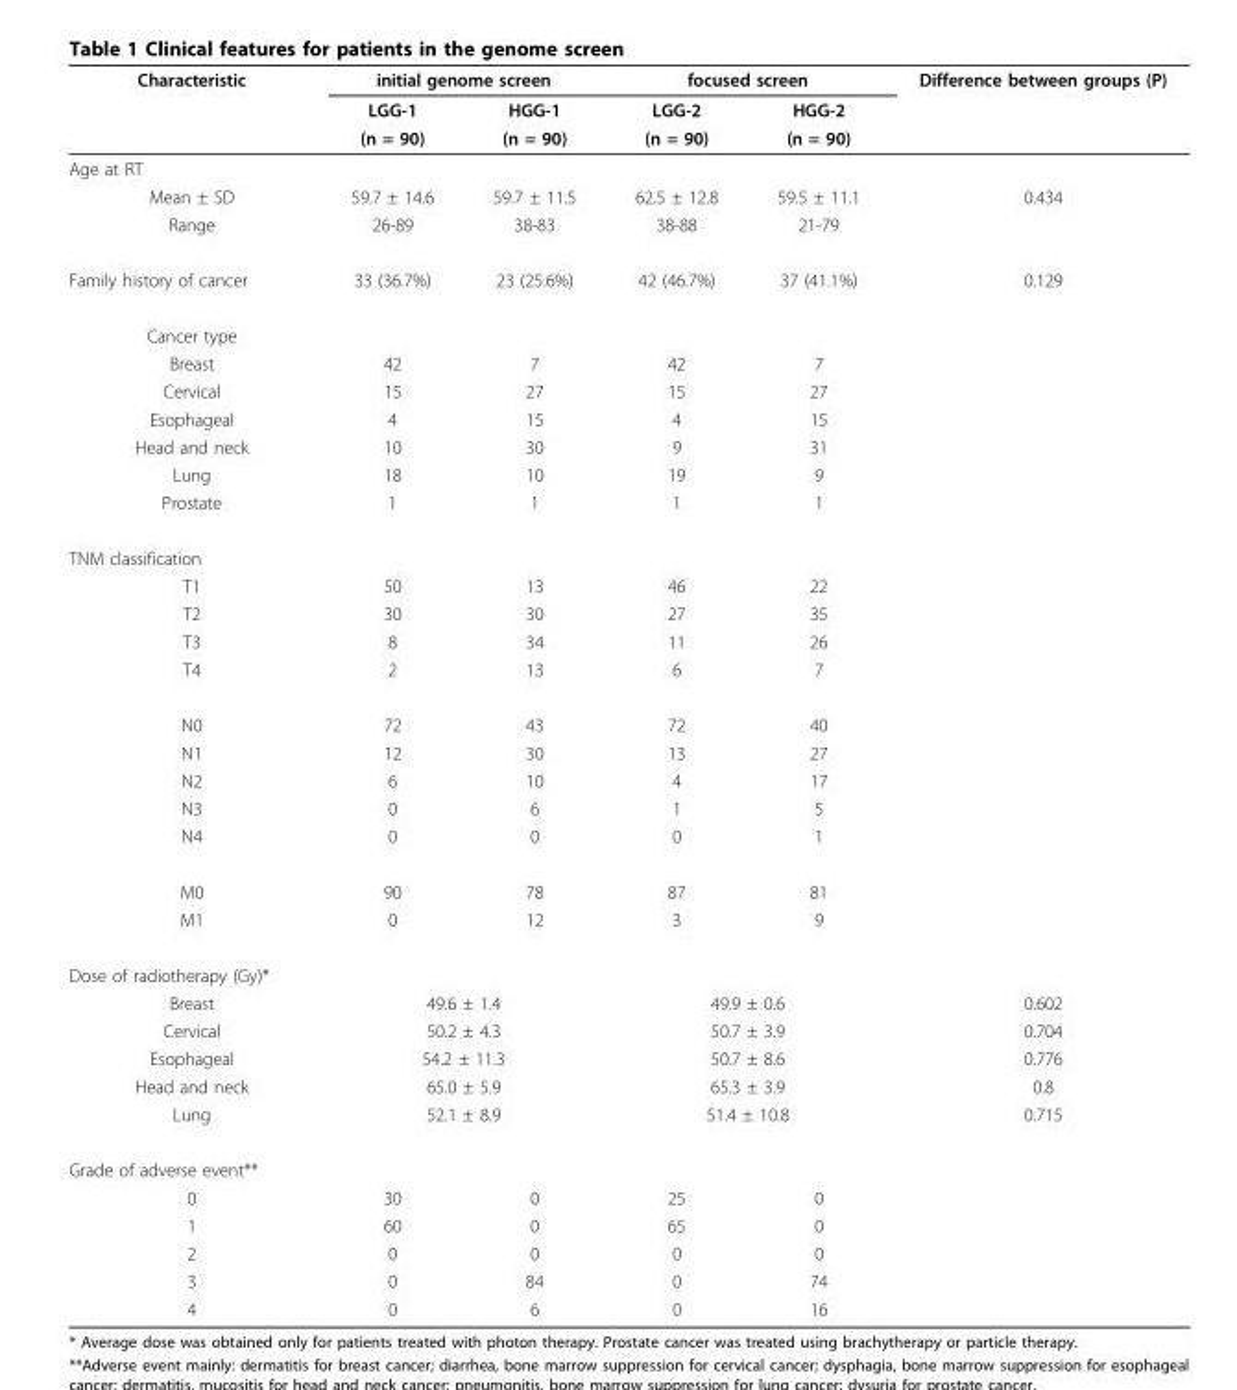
<table><thead><tr><td rowspan="3">Characteristic</td><td colspan="2">initial genome screen</td><td colspan="2">focused screen</td><td rowspan="3">Difference between groups (P)</td></tr><tr><td rowspan="2">LGG-1 (n = 90)</td><td rowspan="2">HGG-1 (n = 90)</td><td rowspan="2">LGG-2 (n = 90)</td><td rowspan="2">HGG-2 (n = 90)</td></tr><tr></tr></thead><tbody><tr><td colspan="6">Age at RT</td></tr><tr><td>Mean ± SD</td><td>59.7 ± 14.6</td><td>59.7 ± 11.5</td><td>62.5 ± 12.8</td><td>59.5 ± 11.1</td><td>0.434</td></tr><tr><td>Range</td><td>26-89</td><td>38-83</td><td>38-88</td><td>21-79</td><td></td></tr><tr><td>Family history of cancer</td><td>33 (36.7%)</td><td>23 (25.6%)</td><td>42 (46.7%)</td><td>37 (41.1%)</td><td>0.129</td></tr><tr><td colspan="6">Cancer type</td></tr><tr><td>Breast</td><td>42</td><td>7</td><td>42</td><td>7</td><td></td></tr><tr><td>Cervical</td><td>15</td><td>27</td><td>15</td><td>27</td><td></td></tr><tr><td>Esophageal</td><td>4</td><td>15</td><td>4</td><td>15</td><td></td></tr><tr><td>Head and neck</td><td>10</td><td>30</td><td>9</td><td>31</td><td></td></tr><tr><td>Lung</td><td>18</td><td>10</td><td>19</td><td>9</td><td></td></tr><tr><td>Prostate</td><td>1</td><td>1</td><td>1</td><td>1</td><td></td></tr><tr><td colspan="6">TNM classification</td></tr><tr><td>T1</td><td>50</td><td>13</td><td>46</td><td>22</td><td></td></tr><tr><td>T2</td><td>30</td><td>30</td><td>27</td><td>35</td><td></td></tr><tr><td>T3</td><td>8</td><td>34</td><td>11</td><td>26</td><td></td></tr><tr><td>T4</td><td>2</td><td>13</td><td>6</td><td>7</td><td></td></tr><tr><td>N0</td><td>72</td><td>43</td><td>72</td><td>40</td><td></td></tr><tr><td>N1</td><td>12</td><td>30</td><td>13</td><td>27</td><td></td></tr><tr><td>N2</td><td>6</td><td>10</td><td>4</td><td>17</td><td></td></tr><tr><td>N3</td><td>0</td><td>6</td><td>1</td><td>5</td><td></td></tr><tr><td>N4</td><td>0</td><td>0</td><td>0</td><td>1</td><td></td></tr><tr><td>M0</td><td>90</td><td>78</td><td>87</td><td>81</td><td></td></tr><tr><td>M1</td><td>0</td><td>12</td><td>3</td><td>9</td><td></td></tr><tr><td colspan="6">Dose of radiotherapy (Gy)*</td></tr><tr><td>Breast</td><td colspan="2">49.6 ± 1.4</td><td colspan="2">49.9 ± 0.6</td><td>0.602</td></tr><tr><td>Cervical</td><td colspan="2">50.2 ± 4.3</td><td colspan="2">50.7 ± 3.9</td><td>0.704</td></tr><tr><td>Esophageal</td><td colspan="2">54.2 ± 11.3</td><td colspan="2">50.7 ± 8.6</td><td>0.776</td></tr><tr><td>Head and neck</td><td colspan="2">65.0 ± 5.9</td><td colspan="2">65.3 ± 3.9</td><td>0.8</td></tr><tr><td>Lung</td><td colspan="2">52.1 ± 8.9</td><td colspan="2">51.4 ± 10.8</td><td>0.715</td></tr><tr><td colspan="6">Grade of adverse event**</td></tr><tr><td>0</td><td>30</td><td>0</td><td>25</td><td>0</td><td></td></tr><tr><td>1</td><td>60</td><td>0</td><td>65</td><td>0</td><td></td></tr><tr><td>2</td><td>0</td><td>0</td><td>0</td><td>0</td><td></td></tr><tr><td>3</td><td>0</td><td>84</td><td>0</td><td>74</td><td></td></tr><tr><td>4</td><td>0</td><td>6</td><td>0</td><td>16</td><td></td></tr></tbody></table>